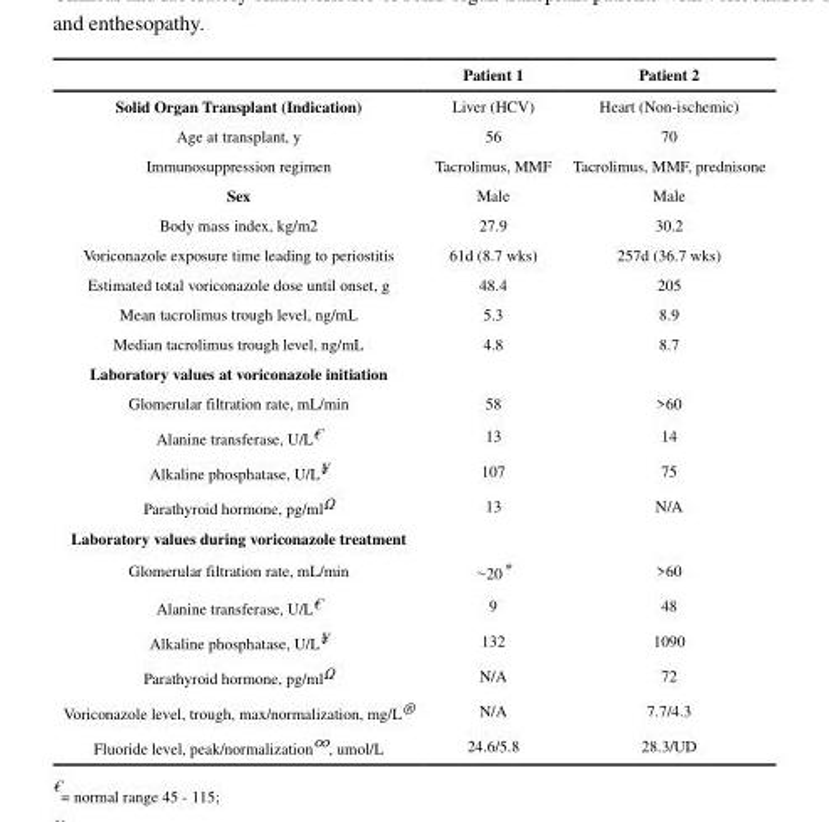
<table><thead><tr><td></td><td>Patient 1</td><td>Patient 2</td></tr></thead><tbody><tr><td>Solid Organ Transplant (Indication)</td><td>Liver (HCV)</td><td>Heart (Non-ischemic)</td></tr><tr><td>Age at transplant, y</td><td>56</td><td>70</td></tr><tr><td>Immunosuppression regimen</td><td>Tacrolimus, MMF</td><td>Tacrolimus, MMF, prednisone</td></tr><tr><td>Sex</td><td>Male</td><td>Male</td></tr><tr><td>Body mass index, kg/m2</td><td>27.9</td><td>30.2</td></tr><tr><td>Voriconazole exposure time leading to periostitis</td><td>61d (8.7 wks)</td><td>257d (36.7 wks)</td></tr><tr><td>Estimated total voriconazole dose until onset, g</td><td>48.4</td><td>205</td></tr><tr><td>Mean tacrolimus trough level, ng/mL</td><td>5.3</td><td>8.9</td></tr><tr><td>Median tacrolimus trough level, ng/mL</td><td>4.8</td><td>8.7</td></tr><tr><td colspan="3">Laboratory values at voriconazole initiation</td></tr><tr><td>Glomerular filtration rate, mL/min</td><td>58</td><td>&gt;60</td></tr><tr><td>Alanine transferase, U/L€</td><td>13</td><td>14</td></tr><tr><td>Alkaline phosphatase, U/L¥</td><td>107</td><td>75</td></tr><tr><td>Parathyroid hormone, pg/mlΩ</td><td>13</td><td>N/A</td></tr><tr><td colspan="3">Laboratory values during voriconazole treatment</td></tr><tr><td>Glomerular filtration rate, mL/min</td><td>∼20*</td><td>&gt;60</td></tr><tr><td>Alanine transferase, U/L€</td><td>9</td><td>48</td></tr><tr><td>Alkaline phosphatase, U/L¥</td><td>132</td><td>1090</td></tr><tr><td>Parathyroid hormone, pg/mlΩ</td><td>N/A</td><td>72</td></tr><tr><td>Voriconazole level, trough, max/normalization, mg/L®</td><td>N/A</td><td>7.7/4.3</td></tr><tr><td>Fluoride level, peak/normalization∞, umol/L</td><td>24.6/5.8</td><td>28.3/UD</td></tr></tbody></table>